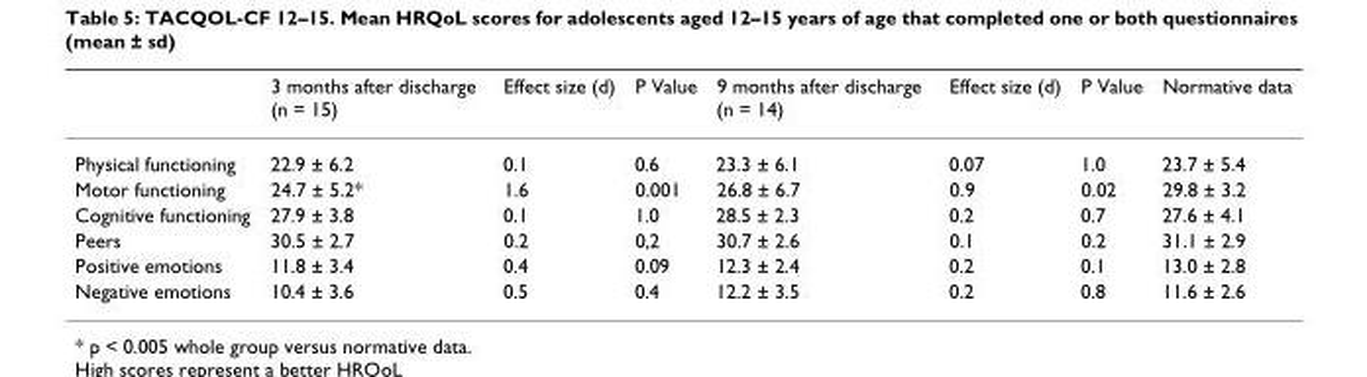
<table><thead><tr><td></td><td>3 months after discharge (n = 15)</td><td>Effect size (d)</td><td>P Value</td><td>9 months after discharge (n = 14)</td><td>Effect size (d)</td><td>P Value</td><td>Normative data</td></tr></thead><tbody><tr><td>Physical functioning</td><td>22.9 ± 6.2</td><td>0.1</td><td>0.6</td><td>23.3 ± 6.1</td><td>0.07</td><td>1.0</td><td>23.7 ± 5.4</td></tr><tr><td>Motor functioning</td><td>24.7 ± 5.2*</td><td>1.6</td><td>0.001</td><td>26.8 ± 6.7</td><td>0.9</td><td>0.02</td><td>29.8 ± 3.2</td></tr><tr><td>Cognitive functioning</td><td>27.9 ± 3.8</td><td>0.1</td><td>1.0</td><td>28.5 ± 2.3</td><td>0.2</td><td>0.7</td><td>27.6 ± 4.1</td></tr><tr><td>Peers</td><td>30.5 ± 2.7</td><td>0.2</td><td>0,2</td><td>30.7 ± 2.6</td><td>0.1</td><td>0.2</td><td>31.1 ± 2.9</td></tr><tr><td>Positive emotions</td><td>11.8 ± 3.4</td><td>0.4</td><td>0.09</td><td>12.3 ± 2.4</td><td>0.2</td><td>0.1</td><td>13.0 ± 2.8</td></tr><tr><td>Negative emotions</td><td>10.4 ± 3.6</td><td>0.5</td><td>0.4</td><td>12.2 ± 3.5</td><td>0.2</td><td>0.8</td><td>11.6 ± 2.6</td></tr></tbody></table>